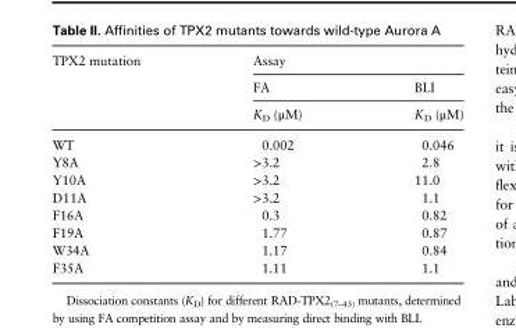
<table><thead><tr><td rowspan="3">TPX2 mutation</td><td colspan="2">Assay</td></tr><tr><td rowspan="2">FA K<sub>D</sub> (μM)</td><td rowspan="2">BLI K<sub>D</sub> (μM)</td></tr><tr></tr></thead><tbody><tr><td>WT</td><td>0.002</td><td>0.046</td></tr><tr><td>Y8A</td><td>&gt;3.2</td><td>2.8</td></tr><tr><td>Y10A</td><td>&gt;3.2</td><td>11.0</td></tr><tr><td>D11A</td><td>&gt;3.2</td><td>1.1</td></tr><tr><td>F16A</td><td>0.3</td><td>0.82</td></tr><tr><td>F19A</td><td>1.77</td><td>0.87</td></tr><tr><td>W34A</td><td>1.17</td><td>0.84</td></tr><tr><td>F35A</td><td>1.11</td><td>1.1</td></tr></tbody></table>